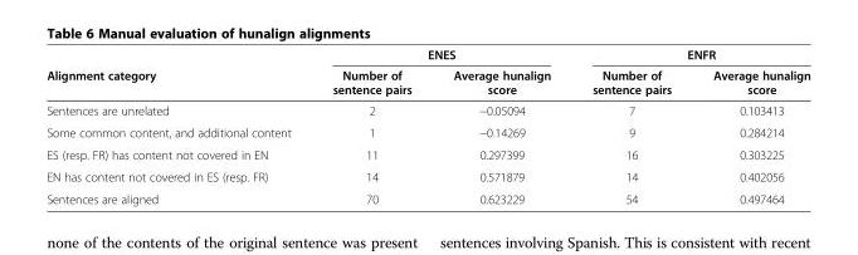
<table><thead><tr><td rowspan="2">Alignment category</td><td colspan="2">ENES</td><td colspan="2">ENFR</td></tr><tr><td>Number of sentence pairs</td><td>Average hunalign score</td><td>Number of sentence pairs</td><td>Average hunalign score</td></tr></thead><tbody><tr><td>Sentences are unrelated</td><td>2</td><td>−0.05094</td><td>7</td><td>0.103413</td></tr><tr><td>Some common content, and additional content</td><td>1</td><td>−0.14269</td><td>9</td><td>0.284214</td></tr><tr><td>ES (resp. FR) has content not covered in EN</td><td>11</td><td>0.297399</td><td>16</td><td>0.303225</td></tr><tr><td>EN has content not covered in ES (resp. FR)</td><td>14</td><td>0.571879</td><td>14</td><td>0.402056</td></tr><tr><td>Sentences are aligned</td><td>70</td><td>0.623229</td><td>54</td><td>0.497464</td></tr></tbody></table>